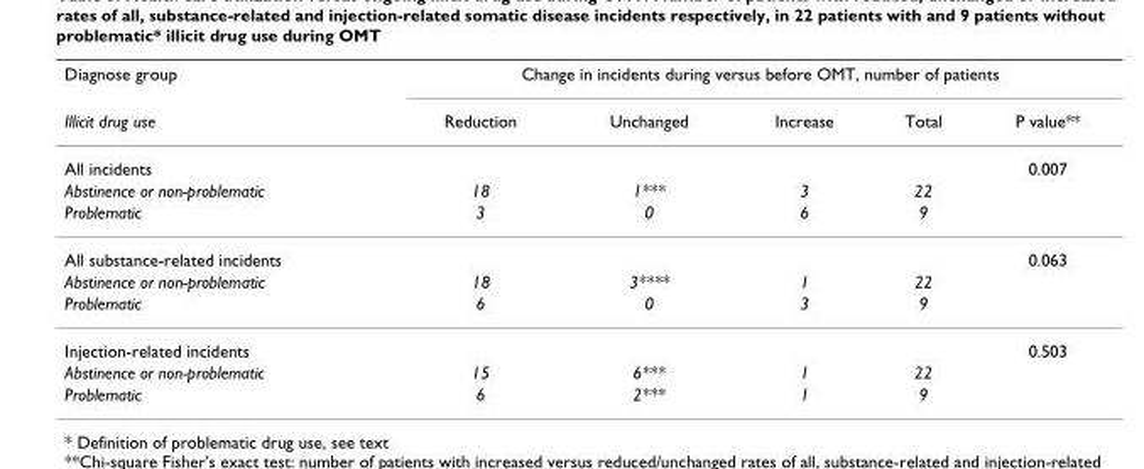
<table><thead><tr><td rowspan="2">Diagnose group Illicit drug use</td><td colspan="5">Change in incidents during versus before OMT, number of patients</td></tr><tr><td>Reduction</td><td>Unchanged</td><td>Increase</td><td>Total</td><td>P value**</td></tr></thead><tbody><tr><td>All incidents</td><td></td><td></td><td></td><td></td><td>0.007</td></tr><tr><td>Abstinence or non-problematic</td><td>18</td><td>1***</td><td>3</td><td>22</td><td></td></tr><tr><td>Problematic</td><td>3</td><td>0</td><td>6</td><td>9</td><td></td></tr><tr><td>All substance-related incidents</td><td></td><td></td><td></td><td></td><td>0.063</td></tr><tr><td>Abstinence or non-problematic</td><td>18</td><td>3****</td><td>1</td><td>22</td><td></td></tr><tr><td>Problematic</td><td>6</td><td>0</td><td>3</td><td>9</td><td></td></tr><tr><td>Injection-related incidents</td><td></td><td></td><td></td><td></td><td>0.503</td></tr><tr><td>Abstinence or non-problematic</td><td>15</td><td>6***</td><td>1</td><td>22</td><td></td></tr><tr><td>Problematic</td><td>6</td><td>2***</td><td>1</td><td>9</td><td></td></tr></tbody></table>